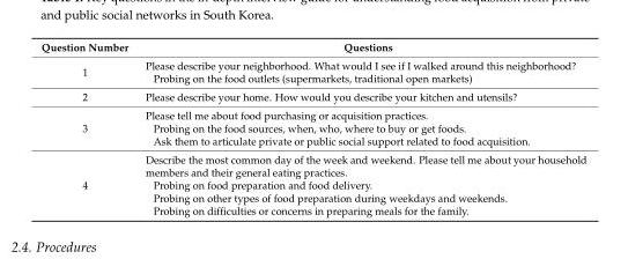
<table><thead><tr><td>Question Number</td><td>Questions</td></tr></thead><tbody><tr><td>1</td><td>Please describe your neighborhood. What would I see if I walked around this neighborhood? Probing on the food outlets (supermarkets, traditional open markets)</td></tr><tr><td>2</td><td>Please describe your home. How would you describe your kitchen and utensils?</td></tr><tr><td>3</td><td>Please tell me about food purchasing or acquisition practices. Probing on the food sources, when, who, where to buy or get foods. Ask them to articulate private or public social support related to food acquisition.</td></tr><tr><td>4</td><td>Describe the most common day of the week and weekend. Please tell me about your household members and their general eating practices. Probing on food preparation and food delivery. Probing on other types of food preparation during weekdays and weekends. Probing on difficulties or concerns in preparing meals for the family.</td></tr></tbody></table>